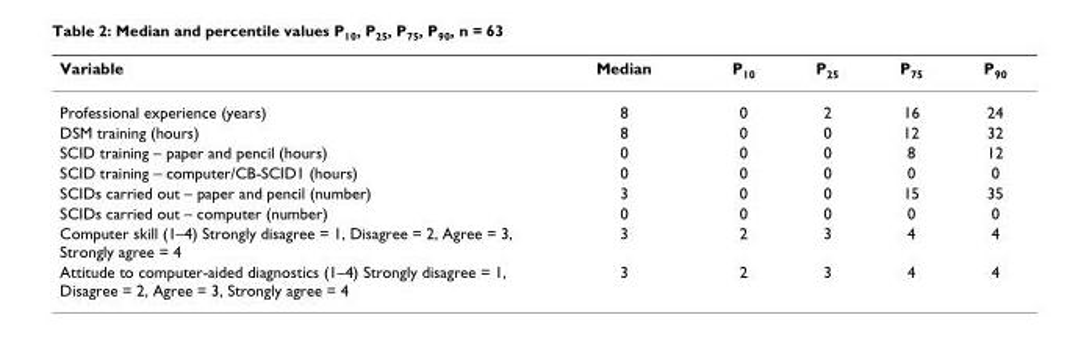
<table><thead><tr><td>Variable</td><td>Median</td><td>P<sub>10</sub></td><td>P<sub>25</sub></td><td>P<sub>75</sub></td><td>P<sub>90</sub></td></tr></thead><tbody><tr><td>Professional experience (years)</td><td>8</td><td>0</td><td>2</td><td>16</td><td>24</td></tr><tr><td>DSM training (hours)</td><td>8</td><td>0</td><td>0</td><td>12</td><td>32</td></tr><tr><td>SCID training – paper and pencil (hours)</td><td>0</td><td>0</td><td>0</td><td>8</td><td>12</td></tr><tr><td>SCID training – computer/CB-SCID1 (hours)</td><td>0</td><td>0</td><td>0</td><td>0</td><td>0</td></tr><tr><td>SCIDs carried out – paper and pencil (number)</td><td>3</td><td>0</td><td>0</td><td>15</td><td>35</td></tr><tr><td>SCIDs carried out – computer (number)</td><td>0</td><td>0</td><td>0</td><td>0</td><td>0</td></tr><tr><td>Computer skill (1–4) Strongly disagree = 1, Disagree = 2, Agree = 3, Strongly agree = 4</td><td>3</td><td>2</td><td>3</td><td>4</td><td>4</td></tr><tr><td>Attitude to computer-aided diagnostics (1–4) Strongly disagree = 1, Disagree = 2, Agree = 3, Strongly agree = 4</td><td>3</td><td>2</td><td>3</td><td>4</td><td>4</td></tr></tbody></table>